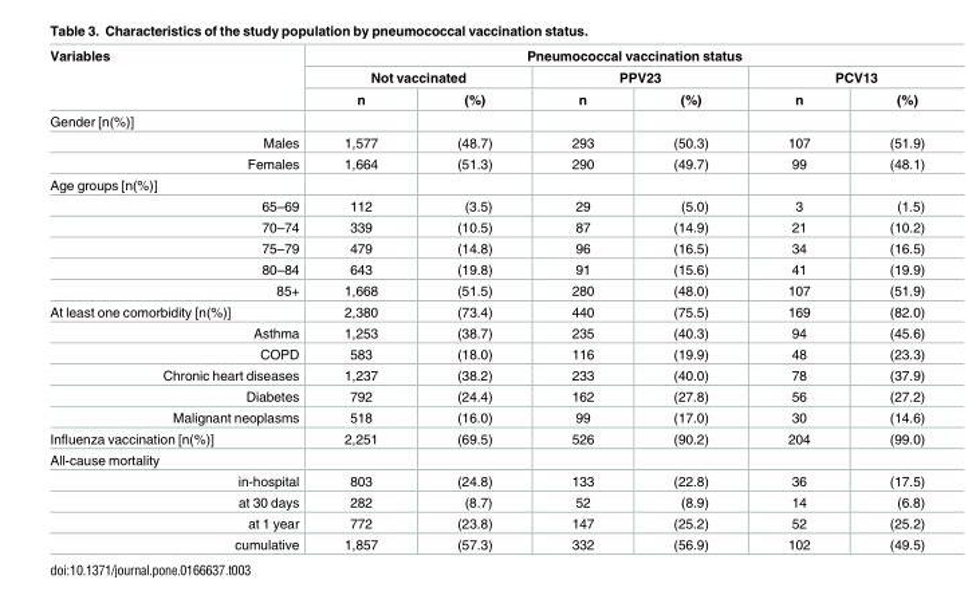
<table><thead><tr><td rowspan="3">Variables</td><td colspan="6">Pneumococcal vaccination status</td></tr><tr><td colspan="2">Not vaccinated</td><td colspan="2">PPV23</td><td colspan="2">PCV13</td></tr><tr><td>n</td><td>(%)</td><td>n</td><td>(%)</td><td>n</td><td>(%)</td></tr></thead><tbody><tr><td colspan="7">Gender [n(%)]</td></tr><tr><td>Males</td><td>1,577</td><td>(48.7)</td><td>293</td><td>(50.3)</td><td>107</td><td>(51.9)</td></tr><tr><td>Females</td><td>1,664</td><td>(51.3)</td><td>290</td><td>(49.7)</td><td>99</td><td>(48.1)</td></tr><tr><td colspan="7">Age groups [n(%)]</td></tr><tr><td>65–69</td><td>112</td><td>(3.5)</td><td>29</td><td>(5.0)</td><td>3</td><td>(1.5)</td></tr><tr><td>70–74</td><td>339</td><td>(10.5)</td><td>87</td><td>(14.9)</td><td>21</td><td>(10.2)</td></tr><tr><td>75–79</td><td>479</td><td>(14.8)</td><td>96</td><td>(16.5)</td><td>34</td><td>(16.5)</td></tr><tr><td>80–84</td><td>643</td><td>(19.8)</td><td>91</td><td>(15.6)</td><td>41</td><td>(19.9)</td></tr><tr><td>85+</td><td>1,668</td><td>(51.5)</td><td>280</td><td>(48.0)</td><td>107</td><td>(51.9)</td></tr><tr><td>At least one comorbidity [n(%)]</td><td>2,380</td><td>(73.4)</td><td>440</td><td>(75.5)</td><td>169</td><td>(82.0)</td></tr><tr><td>Asthma</td><td>1,253</td><td>(38.7)</td><td>235</td><td>(40.3)</td><td>94</td><td>(45.6)</td></tr><tr><td>COPD</td><td>583</td><td>(18.0)</td><td>116</td><td>(19.9)</td><td>48</td><td>(23.3)</td></tr><tr><td>Chronic heart diseases</td><td>1,237</td><td>(38.2)</td><td>233</td><td>(40.0)</td><td>78</td><td>(37.9)</td></tr><tr><td>Diabetes</td><td>792</td><td>(24.4)</td><td>162</td><td>(27.8)</td><td>56</td><td>(27.2)</td></tr><tr><td>Malignant neoplasms</td><td>518</td><td>(16.0)</td><td>99</td><td>(17.0)</td><td>30</td><td>(14.6)</td></tr><tr><td>Influenza vaccination [n(%)]</td><td>2,251</td><td>(69.5)</td><td>526</td><td>(90.2)</td><td>204</td><td>(99.0)</td></tr><tr><td colspan="7">All-cause mortality</td></tr><tr><td>in-hospital</td><td>803</td><td>(24.8)</td><td>133</td><td>(22.8)</td><td>36</td><td>(17.5)</td></tr><tr><td>at 30 days</td><td>282</td><td>(8.7)</td><td>52</td><td>(8.9)</td><td>14</td><td>(6.8)</td></tr><tr><td>at 1 year</td><td>772</td><td>(23.8)</td><td>147</td><td>(25.2)</td><td>52</td><td>(25.2)</td></tr><tr><td>cumulative</td><td>1,857</td><td>(57.3)</td><td>332</td><td>(56.9)</td><td>102</td><td>(49.5)</td></tr></tbody></table>